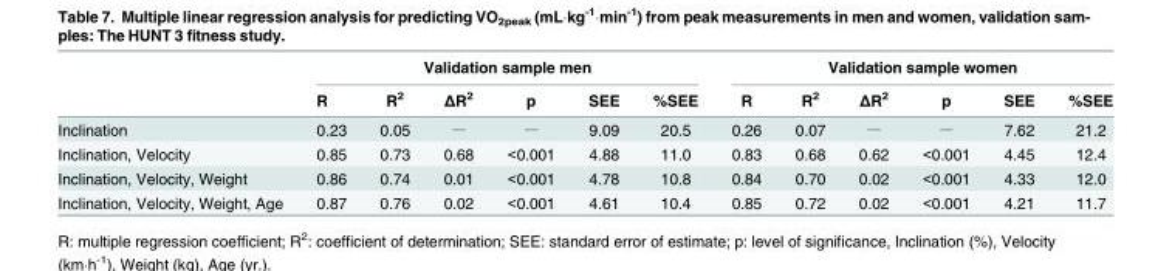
<table><thead><tr><td rowspan="2"></td><td colspan="6">Validation sample men</td><td colspan="6">Validation sample women</td></tr><tr><td>R</td><td>R<sup>2</sup></td><td>ΔR<sup>2</sup></td><td>p</td><td>SEE</td><td>%SEE</td><td>R</td><td>R<sup>2</sup></td><td>ΔR<sup>2</sup></td><td>p</td><td>SEE</td><td>%SEE</td></tr></thead><tbody><tr><td>Inclination</td><td>0.23</td><td>0.05</td><td><sup>__</sup></td><td><sup>__</sup></td><td>9.09</td><td>20.5</td><td>0.26</td><td>0.07</td><td><sup>__</sup></td><td><sup>__</sup></td><td>7.62</td><td>21.2</td></tr><tr><td>Inclination, Velocity</td><td>0.85</td><td>0.73</td><td>0.68</td><td>&lt;0.001</td><td>4.88</td><td>11.0</td><td>0.83</td><td>0.68</td><td>0.62</td><td>&lt;0.001</td><td>4.45</td><td>12.4</td></tr><tr><td>Inclination, Velocity, Weight</td><td>0.86</td><td>0.74</td><td>0.01</td><td>&lt;0.001</td><td>4.78</td><td>10.8</td><td>0.84</td><td>0.70</td><td>0.02</td><td>&lt;0.001</td><td>4.33</td><td>12.0</td></tr><tr><td>Inclination, Velocity, Weight, Age</td><td>0.87</td><td>0.76</td><td>0.02</td><td>&lt;0.001</td><td>4.61</td><td>10.4</td><td>0.85</td><td>0.72</td><td>0.02</td><td>&lt;0.001</td><td>4.21</td><td>11.7</td></tr></tbody></table>